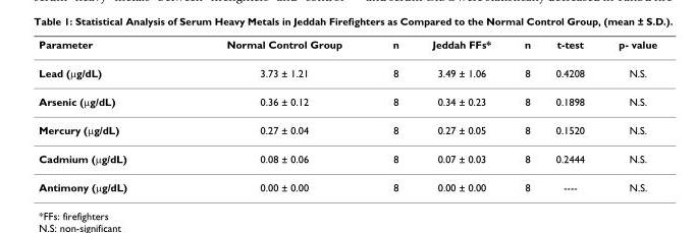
<table><thead><tr><td>Parameter</td><td>Normal Control Group</td><td>n</td><td>Jeddah FFs*</td><td>n</td><td>t-test</td><td>p- value</td></tr></thead><tbody><tr><td>Lead (μg/dL)</td><td>3.73 ± 1.21</td><td>8</td><td>3.49 ± 1.06</td><td>8</td><td>0.4208</td><td>N.S.</td></tr><tr><td>Arsenic (μg/dL)</td><td>0.36 ± 0.12</td><td>8</td><td>0.34 ± 0.23</td><td>8</td><td>0.1898</td><td>N.S.</td></tr><tr><td>Mercury (μg/dL)</td><td>0.27 ± 0.04</td><td>8</td><td>0.27 ± 0.05</td><td>8</td><td>0.1520</td><td>N.S.</td></tr><tr><td>Cadmium (μg/dL)</td><td>0.08 ± 0.06</td><td>8</td><td>0.07 ± 0.03</td><td>8</td><td>0.2444</td><td>N.S.</td></tr><tr><td>Antimony (μg/dL)</td><td>0.00 ± 0.00</td><td>8</td><td>0.00 ± 0.00</td><td>8</td><td>----</td><td>N.S.</td></tr></tbody></table>